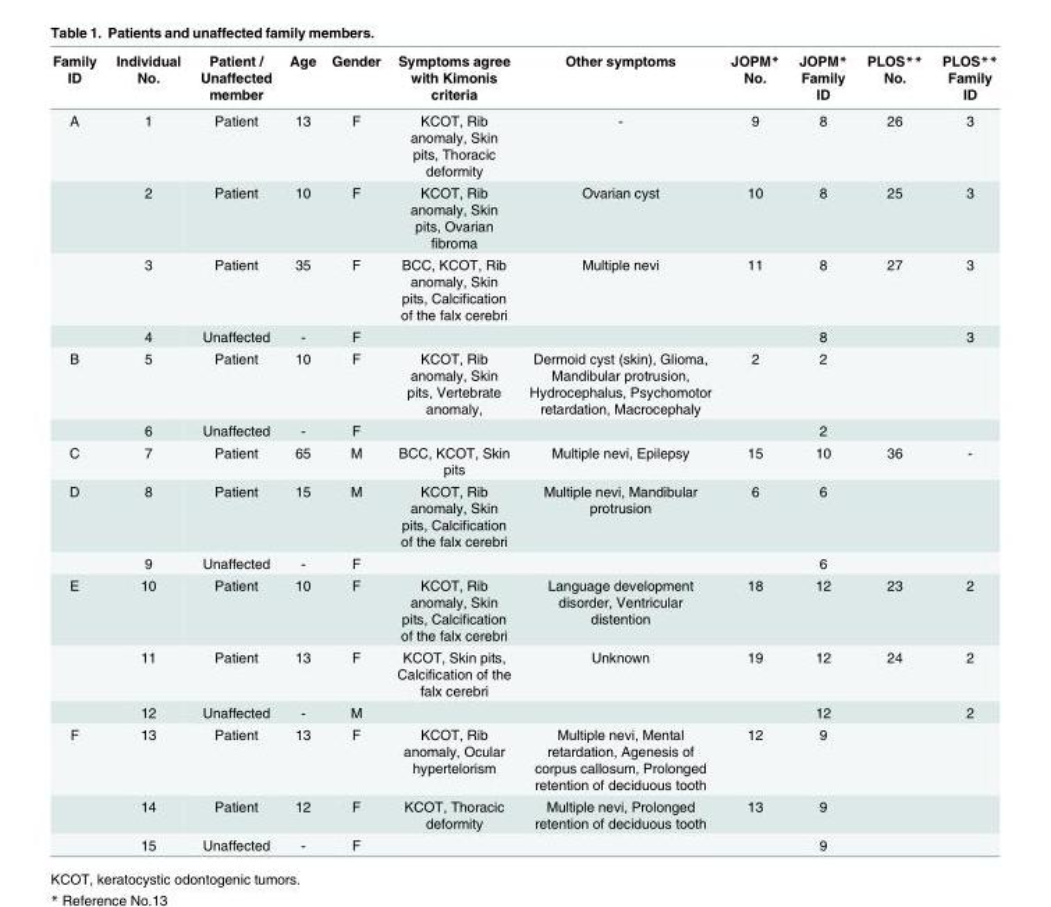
<table><thead><tr><td>Family ID</td><td>Individual No.</td><td>Patient / Unaffected member</td><td>Age</td><td>Gender</td><td>Symptoms agree with Kimonis criteria</td><td>Other symptoms</td><td>JOPM* No.</td><td>JOPM* Family ID</td><td>PLOS** No.</td><td>PLOS** Family ID</td></tr></thead><tbody><tr><td rowspan="4">A</td><td>1</td><td>Patient</td><td>13</td><td>F</td><td>KCOT, Rib anomaly, Skin pits, Thoracic deformity</td><td>-</td><td>9</td><td>8</td><td>26</td><td>3</td></tr><tr><td>2</td><td>Patient</td><td>10</td><td>F</td><td>KCOT, Rib anomaly, Skin pits, Ovarian fibroma</td><td>Ovarian cyst</td><td>10</td><td>8</td><td>25</td><td>3</td></tr><tr><td>3</td><td>Patient</td><td>35</td><td>F</td><td>BCC, KCOT, Rib anomaly, Skin pits, Calcification of the falx cerebri</td><td>Multiple nevi</td><td>11</td><td>8</td><td>27</td><td>3</td></tr><tr><td>4</td><td>Unaffected</td><td>-</td><td>F</td><td></td><td></td><td></td><td>8</td><td></td><td>3</td></tr><tr><td rowspan="2">B</td><td>5</td><td>Patient</td><td>10</td><td>F</td><td>KCOT, Rib anomaly, Skin pits, Vertebrate anomaly,</td><td>Dermoid cyst (skin), Glioma, Mandibular protrusion, Hydrocephalus, Psychomotor retardation, Macrocephaly</td><td>2</td><td>2</td><td></td><td></td></tr><tr><td>6</td><td>Unaffected</td><td>-</td><td>F</td><td></td><td></td><td></td><td>2</td><td></td><td></td></tr><tr><td>C</td><td>7</td><td>Patient</td><td>65</td><td>M</td><td>BCC, KCOT, Skin pits</td><td>Multiple nevi, Epilepsy</td><td>15</td><td>10</td><td>36</td><td>-</td></tr><tr><td rowspan="2">D</td><td>8</td><td>Patient</td><td>15</td><td>M</td><td>KCOT, Rib anomaly, Skin pits, Calcification of the falx cerebri</td><td>Multiple nevi, Mandibular protrusion</td><td>6</td><td>6</td><td></td><td></td></tr><tr><td>9</td><td>Unaffected</td><td>-</td><td>F</td><td></td><td></td><td></td><td>6</td><td></td><td></td></tr><tr><td rowspan="3">E</td><td>10</td><td>Patient</td><td>10</td><td>F</td><td>KCOT, Rib anomaly, Skin pits, Calcification of the falx cerebri</td><td>Language development disorder, Ventricular distention</td><td>18</td><td>12</td><td>23</td><td>2</td></tr><tr><td>11</td><td>Patient</td><td>13</td><td>F</td><td>KCOT, Skin pits, Calcification of the falx cerebri</td><td>Unknown</td><td>19</td><td>12</td><td>24</td><td>2</td></tr><tr><td>12</td><td>Unaffected</td><td>-</td><td>M</td><td></td><td></td><td></td><td>12</td><td></td><td>2</td></tr><tr><td rowspan="3">F</td><td>13</td><td>Patient</td><td>13</td><td>F</td><td>KCOT, Rib anomaly, Ocular hypertelorism</td><td>Multiple nevi, Mental retardation, Agenesis of corpus callosum, Prolonged retention of deciduous tooth</td><td>12</td><td>9</td><td></td><td></td></tr><tr><td>14</td><td>Patient</td><td>12</td><td>F</td><td>KCOT, Thoracic deformity</td><td>Multiple nevi, Prolonged retention of deciduous tooth</td><td>13</td><td>9</td><td></td><td></td></tr><tr><td>15</td><td>Unaffected</td><td>-</td><td>F</td><td></td><td></td><td></td><td>9</td><td></td><td></td></tr></tbody></table>